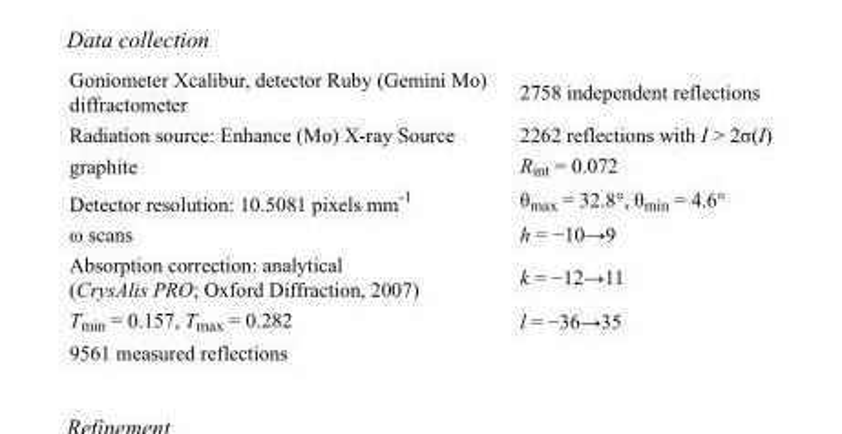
<table><tbody><tr><td>Goniometer Xcalibur, detector Ruby (Gemini Mo) diffractometer</td><td>2758 independent reflections</td></tr><tr><td>Radiation source: Enhance (Mo) X-ray Source</td><td>2262 reflections with I &gt; 2σ(I)</td></tr><tr><td>graphite</td><td>R<sub>int</sub> = 0.072</td></tr><tr><td>Detector resolution: 10.5081 pixels mm<sup>-1</sup></td><td>θ<sub>max</sub> = 32.8°, θ<sub>min</sub> = 4.6°</td></tr><tr><td>ω scans</td><td>h = −10→9</td></tr><tr><td>Absorption correction: analytical (CrysAlis PRO; Oxford Diffraction, 2007)</td><td>k = −12→11</td></tr><tr><td>T<sub>min</sub> = 0.157, T<sub>max</sub> = 0.282</td><td>l = −36→35</td></tr><tr><td>9561 measured reflections</td><td></td></tr></tbody></table>